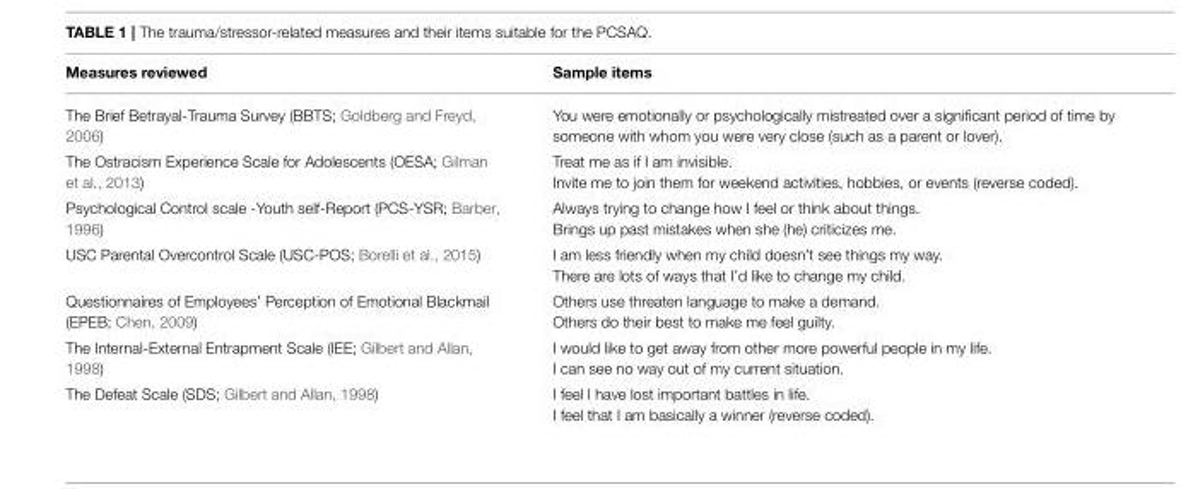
<table><thead><tr><td>Measures reviewed</td><td>Sample items</td></tr></thead><tbody><tr><td>The Brief Betrayal-Trauma Survey (BBTS; Goldberg and Freyd, 2006)</td><td>You were emotionally or psychologically mistreated over a significant period of time by someone with whom you were very close (such as a parent or lover).</td></tr><tr><td>The Ostracism Experience Scale for Adolescents (OESA; Gilman et al., 2013)</td><td>Treat me as if I am invisible. Invite me to join them for weekend activities, hobbies, or events (reverse coded).</td></tr><tr><td>Psychological Control scale -Youth self-Report (PCS-YSR; Barber, 1996)</td><td>Always trying to change how I feel or think about things. Brings up past mistakes when she (he) criticizes me.</td></tr><tr><td>USC Parental Overcontrol Scale (USC-POS; Borelli et al., 2015)</td><td>I am less friendly when my child doesn’t see things my way. There are lots of ways that I’d like to change my child.</td></tr><tr><td>Questionnaires of Employees’ Perception of Emotional Blackmail (EPEB; Chen, 2009)</td><td>Others use threaten language to make a demand. Others do their best to make me feel guilty.</td></tr><tr><td>The Internal-External Entrapment Scale (IEE; Gilbert and Allan, 1998)</td><td>I would like to get away from other more powerful people in my life. I can see no way out of my current situation.</td></tr><tr><td>The Defeat Scale (SDS; Gilbert and Allan, 1998)</td><td>I feel I have lost important battles in life. I feel that I am basically a winner (reverse coded).</td></tr></tbody></table>